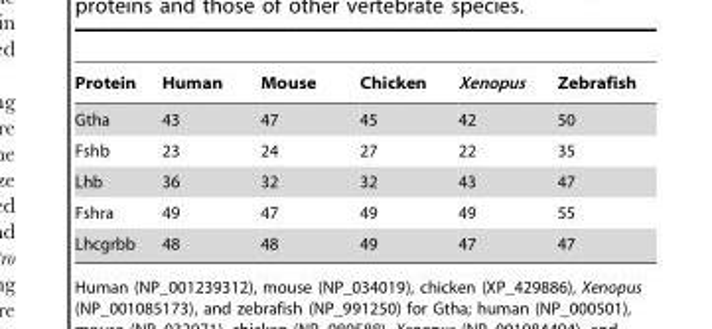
<table><thead><tr><td>Protein</td><td>Human</td><td>Mouse</td><td>Chicken</td><td>Xenopus</td><td>Zebrafish</td></tr></thead><tbody><tr><td>Gtha</td><td>43</td><td>47</td><td>45</td><td>42</td><td>50</td></tr><tr><td>Fshb</td><td>23</td><td>24</td><td>27</td><td>22</td><td>35</td></tr><tr><td>Lhb</td><td>36</td><td>32</td><td>32</td><td>43</td><td>47</td></tr><tr><td>Fshra</td><td>49</td><td>47</td><td>49</td><td>49</td><td>55</td></tr><tr><td>Lhcgrbb</td><td>48</td><td>48</td><td>49</td><td>47</td><td>47</td></tr></tbody></table>